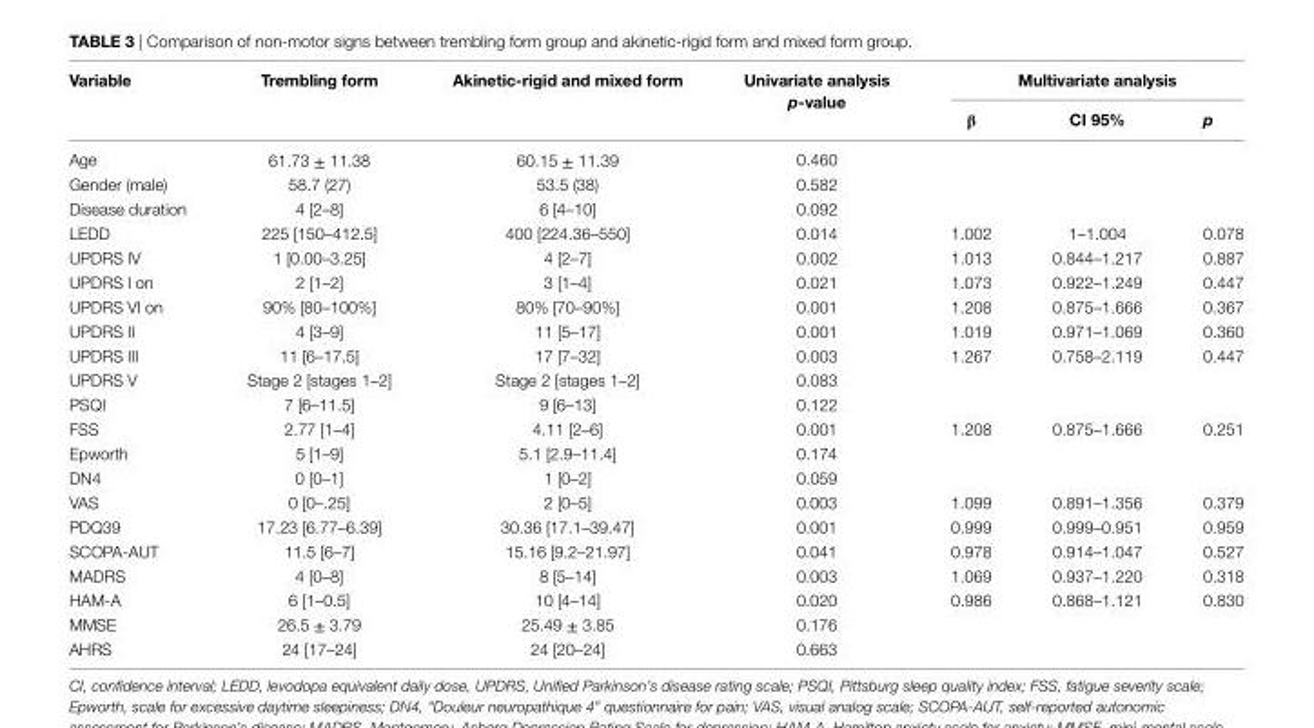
<table><thead><tr><td rowspan="2">Variable</td><td rowspan="2">Trembling form</td><td rowspan="2">akinetic-rigid and mixed form</td><td rowspan="2">Univariate analysis p-value</td><td colspan="3">Multivariate analysis</td></tr><tr><td>β</td><td>ci 95%</td><td>p</td></tr></thead><tbody><tr><td>Age</td><td>61.73 ± 11.38</td><td>60.15 ± 11.39</td><td>0.460</td><td></td><td></td><td></td></tr><tr><td>Gender (male)</td><td>58.7 (27)</td><td>53.5 (38)</td><td>0.582</td><td></td><td></td><td></td></tr><tr><td>Disease duration</td><td>4 [2–8]</td><td>6 [4–10]</td><td>0.092</td><td></td><td></td><td></td></tr><tr><td>LEDD</td><td>225 [150–412.5]</td><td>400 [224.36–550]</td><td>0.014</td><td>1.002</td><td>1–1.004</td><td>0.078</td></tr><tr><td>UPDRS IV</td><td>1 [0.00–3.25]</td><td>4 [2–7]</td><td>0.002</td><td>1.013</td><td>0.844–1.217</td><td>0.887</td></tr><tr><td>UPDRS I on</td><td>2 [1–2]</td><td>3 [1–4]</td><td>0.021</td><td>1.073</td><td>0.922–1.249</td><td>0.447</td></tr><tr><td>UPDRS VI on</td><td>90% [80–100%]</td><td>80% [70–90%]</td><td>0.001</td><td>1.208</td><td>0.875–1.666</td><td>0.367</td></tr><tr><td>UPDRS II</td><td>4 [3–9]</td><td>11 [5–17]</td><td>0.001</td><td>1.019</td><td>0.971–1.069</td><td>0.360</td></tr><tr><td>UPDRS III</td><td>11 [6–17.5]</td><td>17 [7–32]</td><td>0.003</td><td>1.267</td><td>0.758–2.119</td><td>0.447</td></tr><tr><td>UPDRS V</td><td>Stage 2 [stages 1–2]</td><td>Stage 2 [stages 1–2]</td><td>0.083</td><td></td><td></td><td></td></tr><tr><td>PSQI</td><td>7 [6–11.5]</td><td>9 [6–13]</td><td>0.122</td><td></td><td></td><td></td></tr><tr><td>FSS</td><td>2.77 [1–4]</td><td>4.11 [2–6]</td><td>0.001</td><td>1.208</td><td>0.875–1.666</td><td>0.251</td></tr><tr><td>Epworth</td><td>5 [1–9]</td><td>5.1 [2.9–11.4]</td><td>0.174</td><td></td><td></td><td></td></tr><tr><td>DN4</td><td>0 [0–1]</td><td>1 [0–2]</td><td>0.059</td><td></td><td></td><td></td></tr><tr><td>VAS</td><td>0 [0–.25]</td><td>2 [0–5]</td><td>0.003</td><td>1.099</td><td>0.891–1.356</td><td>0.379</td></tr><tr><td>PDQ39</td><td>17.23 [6.77–6.39]</td><td>30.36 [17.1–39.47]</td><td>0.001</td><td>0.999</td><td>0.999–0.951</td><td>0.959</td></tr><tr><td>SCOPA-AUT</td><td>11.5 [6–7]</td><td>15.16 [9.2–21.97]</td><td>0.041</td><td>0.978</td><td>0.914–1.047</td><td>0.527</td></tr><tr><td>MADRS</td><td>4 [0–8]</td><td>8 [5–14]</td><td>0.003</td><td>1.069</td><td>0.937–1.220</td><td>0.318</td></tr><tr><td>HAM-A</td><td>6 [1–0.5]</td><td>10 [4–14]</td><td>0.020</td><td>0.986</td><td>0.868–1.121</td><td>0.830</td></tr><tr><td>MMSE</td><td>26.5 ± 3.79</td><td>25.49 ± 3.85</td><td>0.176</td><td></td><td></td><td></td></tr><tr><td>AHRS</td><td>24 [17–24]</td><td>24 [20–24]</td><td>0.663</td><td></td><td></td><td></td></tr></tbody></table>